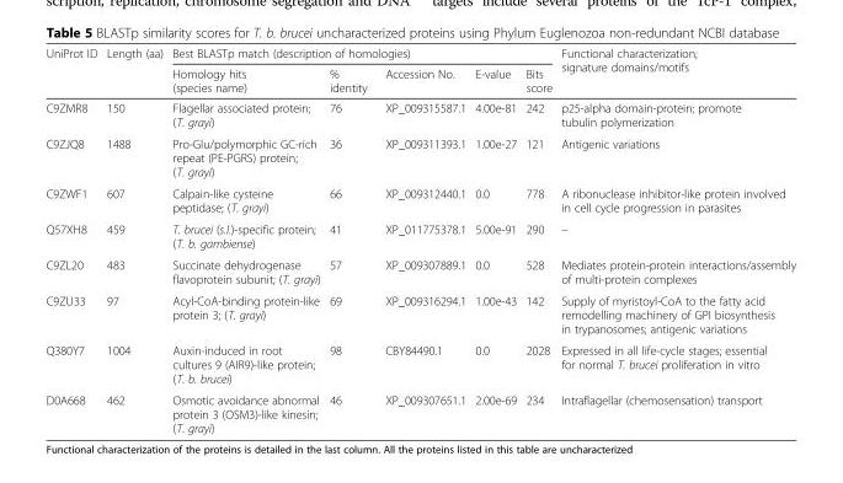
<table><thead><tr><td rowspan="2">UniProt ID</td><td rowspan="2">Length (aa)</td><td colspan="5">Best BLASTp match (description of homologies)</td><td rowspan="2">Functional characterization; signature domains/motifs</td></tr><tr><td>Homology hits (species name)</td><td>% identity</td><td>Accession No.</td><td>E-value</td><td>Bits score</td></tr></thead><tbody><tr><td>C9ZMR8</td><td>150</td><td>Flagellar associated protein; (T. grayi)</td><td>76</td><td>XP_009315587.1</td><td>4.00e-81</td><td>242</td><td>p25-alpha domain-protein; promote tubulin polymerization</td></tr><tr><td>C9ZJQ8</td><td>1488</td><td>Pro-Glu/polymorphic GC-rich repeat (PE-PGRS) protein; (T. grayi)</td><td>36</td><td>XP_009311393.1</td><td>1.00e-27</td><td>121</td><td>Antigenic variations</td></tr><tr><td>C9ZWF1</td><td>607</td><td>Calpain-like cysteine peptidase; (T. grayi)</td><td>66</td><td>XP_009312440.1</td><td>0.0</td><td>778</td><td>A ribonuclease inhibitor-like protein involved in cell cycle progression in parasites</td></tr><tr><td>Q57XH8</td><td>459</td><td>T. brucei (s.l.)-specific protein; (T. b. gambiense)</td><td>41</td><td>XP_011775378.1</td><td>5.00e-91</td><td>290</td><td>–</td></tr><tr><td>C9ZL20</td><td>483</td><td>Succinate dehydrogenase flavoprotein subunit; (T. grayi)</td><td>57</td><td>XP_009307889.1</td><td>0.0</td><td>528</td><td>Mediates protein-protein interactions/assembly of multi-protein complexes</td></tr><tr><td>C9ZU33</td><td>97</td><td>Acyl-CoA-binding protein-like protein 3; (T. grayi)</td><td>69</td><td>XP_009316294.1</td><td>1.00e-43</td><td>142</td><td>Supply of myristoyl-CoA to the fatty acid remodelling machinery of GPI biosynthesis in trypanosomes; antigenic variations</td></tr><tr><td>Q380Y7</td><td>1004</td><td>Auxin-induced in root cultures 9 (AIR9)-like protein; (T. b. brucei)</td><td>98</td><td>CBY84490.1</td><td>0.0</td><td>2028</td><td>Expressed in all life-cycle stages; essential for normal T. brucei proliferation in vitro</td></tr><tr><td>D0A668</td><td>462</td><td>Osmotic avoidance abnormal protein 3 (OSM3)-like kinesin; (T. grayi)</td><td>46</td><td>XP_009307651.1</td><td>2.00e-69</td><td>234</td><td>Intraflagellar (chemosensation) transport</td></tr></tbody></table>